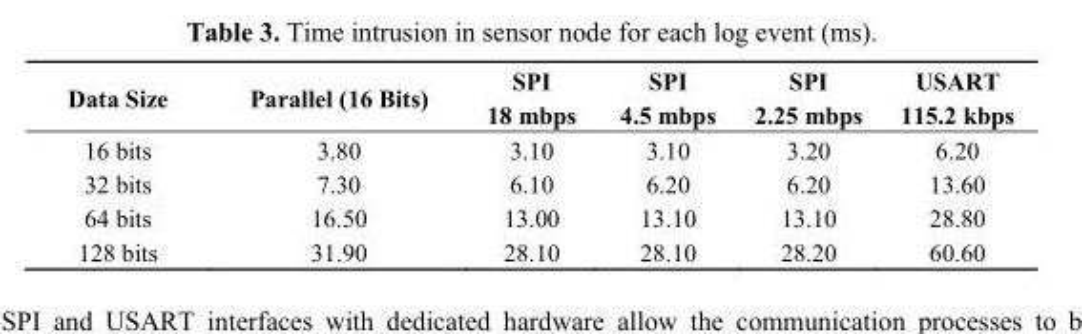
<table><thead><tr><td>Data Size</td><td>Parallel (16 Bits)</td><td>SPI 18 mbps</td><td>SPI 4.5 mbps</td><td>SPI 2.25 mbps</td><td>USART 115.2 kbps</td></tr></thead><tbody><tr><td>16 bits</td><td>3.80</td><td>3.10</td><td>3.10</td><td>3.20</td><td>6.20</td></tr><tr><td>32 bits</td><td>7.30</td><td>6.10</td><td>6.20</td><td>6.20</td><td>13.60</td></tr><tr><td>64 bits</td><td>16.50</td><td>13.00</td><td>13.10</td><td>13.10</td><td>28.80</td></tr><tr><td>128 bits</td><td>31.90</td><td>28.10</td><td>28.10</td><td>28.20</td><td>60.60</td></tr></tbody></table>